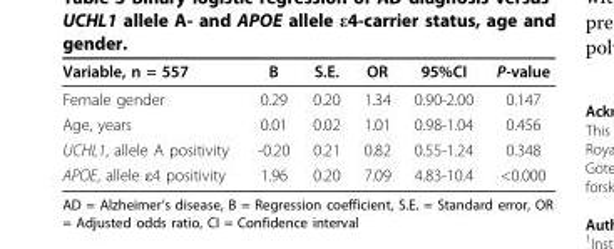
<table><thead><tr><td>Variable, n = 557</td><td>B</td><td>S.E.</td><td>OR</td><td>95%CI</td><td>P-value</td></tr></thead><tbody><tr><td>Female gender</td><td>0.29</td><td>0.20</td><td>1.34</td><td>0.90-2.00</td><td>0.147</td></tr><tr><td>Age, years</td><td>0.01</td><td>0.02</td><td>1.01</td><td>0.98-1.04</td><td>0.456</td></tr><tr><td>UCHL1, allele A positivity</td><td>-0.20</td><td>0.21</td><td>0.82</td><td>0.55-1.24</td><td>0.348</td></tr><tr><td>APOE, allele ε4 positivity</td><td>1.96</td><td>0.20</td><td>7.09</td><td>4.83-10.4</td><td>&lt;0.000</td></tr></tbody></table>